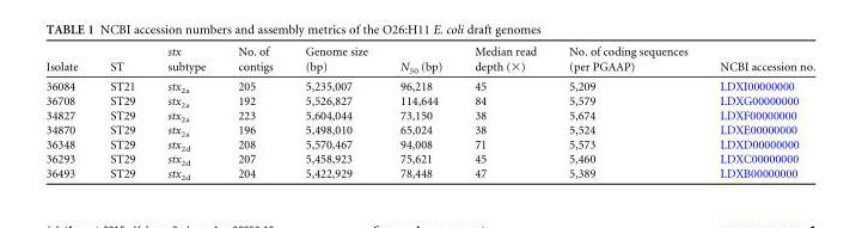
<table><thead><tr><td>Isolate</td><td>ST</td><td>stx subtype</td><td>No. of contigs</td><td>Genome size (bp)</td><td>N<sub>50</sub> (bp)</td><td>Median read depth (×)</td><td>No. of coding sequences (per PGAAP)</td><td>NCBI accession no.</td></tr></thead><tbody><tr><td>36084</td><td>ST21</td><td>stx<sub>2a</sub></td><td>205</td><td>5,235,007</td><td>96,218</td><td>45</td><td>5,209</td><td>LDXI00000000</td></tr><tr><td>36708</td><td>ST29</td><td>stx<sub>2a</sub></td><td>192</td><td>5,526,827</td><td>114,644</td><td>84</td><td>5,579</td><td>LDXG00000000</td></tr><tr><td>34827</td><td>ST29</td><td>stx<sub>2a</sub></td><td>223</td><td>5,604,044</td><td>73,150</td><td>38</td><td>5,674</td><td>LDXF00000000</td></tr><tr><td>34870</td><td>ST29</td><td>stx<sub>2a</sub></td><td>196</td><td>5,498,010</td><td>65,024</td><td>38</td><td>5,524</td><td>LDXE00000000</td></tr><tr><td>36348</td><td>ST29</td><td>stx<sub>2d</sub></td><td>208</td><td>5,570,467</td><td>94,008</td><td>71</td><td>5,573</td><td>LDXD00000000</td></tr><tr><td>36293</td><td>ST29</td><td>stx<sub>2d</sub></td><td>207</td><td>5,458,923</td><td>75,621</td><td>45</td><td>5,460</td><td>LDXC00000000</td></tr><tr><td>36493</td><td>ST29</td><td>stx<sub>2d</sub></td><td>204</td><td>5,422,929</td><td>78,448</td><td>47</td><td>5,389</td><td>LDXB00000000</td></tr></tbody></table>